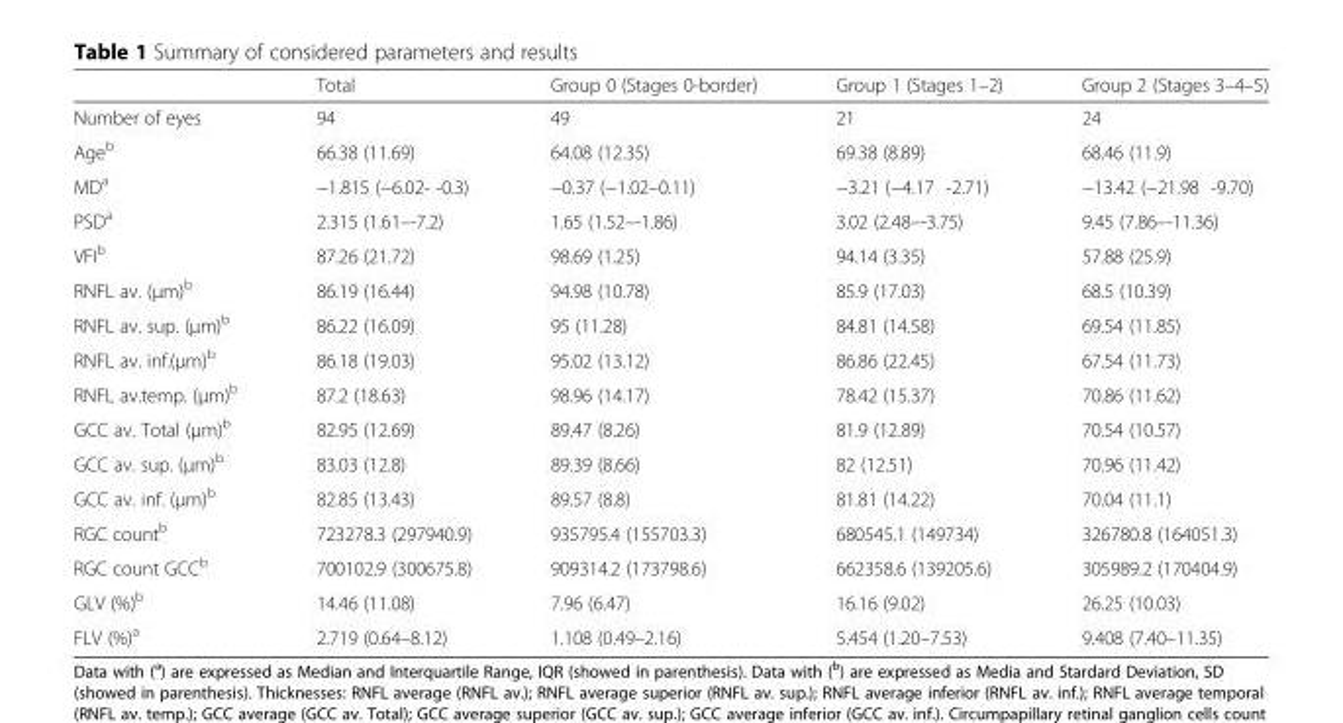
<table><thead><tr><td></td><td>Total</td><td>Group 0 (Stages 0-border)</td><td>Group 1 (Stages 1–2)</td><td>Group 2 (Stages 3–4–5)</td></tr></thead><tbody><tr><td>Number of eyes</td><td>94</td><td>49</td><td>21</td><td>24</td></tr><tr><td>Age<sup>b</sup></td><td>66.38 (11.69)</td><td>64.08 (12.35)</td><td>69.38 (8.89)</td><td>68.46 (11.9)</td></tr><tr><td>MD<sup>a</sup></td><td>−1.815 (−6.02- -0.3)</td><td>−0.37 (−1.02–0.11)</td><td>−3.21 (−4.17 -2.71)</td><td>−13.42 (−21.98 -9.70)</td></tr><tr><td>PSD<sup>a</sup></td><td>2.315 (1.61–-7.2)</td><td>1.65 (1.52–-1.86)</td><td>3.02 (2.48–-3.75)</td><td>9.45 (7.86–-11.36)</td></tr><tr><td>VFI<sup>b</sup></td><td>87.26 (21.72)</td><td>98.69 (1.25)</td><td>94.14 (3.35)</td><td>57.88 (25.9)</td></tr><tr><td>RNFL av. (μm)<sup>b</sup></td><td>86.19 (16.44)</td><td>94.98 (10.78)</td><td>85.9 (17.03)</td><td>68.5 (10.39)</td></tr><tr><td>RNFL av. sup. (μm)<sup>b</sup></td><td>86.22 (16.09)</td><td>95 (11.28)</td><td>84.81 (14.58)</td><td>69.54 (11.85)</td></tr><tr><td>RNFL av. inf.(μm)<sup>b</sup></td><td>86.18 (19.03)</td><td>95.02 (13.12)</td><td>86.86 (22.45)</td><td>67.54 (11.73)</td></tr><tr><td>RNFL av.temp. (μm)<sup>b</sup></td><td>87.2 (18.63)</td><td>98.96 (14.17)</td><td>78.42 (15.37)</td><td>70.86 (11.62)</td></tr><tr><td>GCC av. Total (μm)<sup>b</sup></td><td>82.95 (12.69)</td><td>89.47 (8.26)</td><td>81.9 (12.89)</td><td>70.54 (10.57)</td></tr><tr><td>GCC av. sup. (μm)<sup>b</sup></td><td>83.03 (12.8)</td><td>89.39 (8.66)</td><td>82 (12.51)</td><td>70.96 (11.42)</td></tr><tr><td>GCC av. inf. (μm)<sup>b</sup></td><td>82.85 (13.43)</td><td>89.57 (8.8)</td><td>81.81 (14.22)</td><td>70.04 (11.1)</td></tr><tr><td>RGC count<sup>b</sup></td><td>723278.3 (297940.9)</td><td>935795.4 (155703.3)</td><td>680545.1 (149734)</td><td>326780.8 (164051.3)</td></tr><tr><td>RGC count GCC<sup>b</sup></td><td>700102.9 (300675.8)</td><td>909314.2 (173798.6)</td><td>662358.6 (139205.6)</td><td>305989.2 (170404.9)</td></tr><tr><td>GLV (%)<sup>b</sup></td><td>14.46 (11.08)</td><td>7.96 (6.47)</td><td>16.16 (9.02)</td><td>26.25 (10.03)</td></tr><tr><td>FLV (%)<sup>a</sup></td><td>2.719 (0.64–8.12)</td><td>1.108 (0.49–2.16)</td><td>5.454 (1.20–7.53)</td><td>9.408 (7.40–11.35)</td></tr></tbody></table>